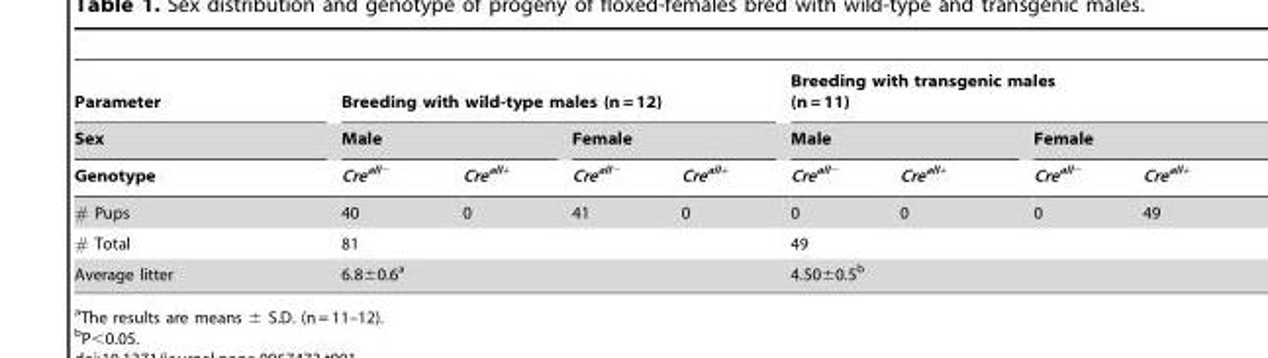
<table><thead><tr><td rowspan="3">Parameter Sex Genotype</td><td colspan="4">Breeding with wild-type males (n = 12)</td><td colspan="4">Breeding with transgenic males (n = 11)</td></tr><tr><td colspan="2">Male</td><td colspan="2">Female</td><td colspan="2">Male</td><td colspan="2">Female</td></tr><tr><td>Cre<sup>all−</sup></td><td>Cre<sup>all+</sup></td><td>Cre<sup>all−</sup></td><td>Cre<sup>all+</sup></td><td>Cre<sup>all−</sup></td><td>Cre<sup>all+</sup></td><td>Cre<sup>all−</sup></td><td>Cre<sup>all+</sup></td></tr></thead><tbody><tr><td># Pups</td><td>40</td><td>0</td><td>41</td><td>0</td><td>0</td><td>0</td><td>0</td><td>49</td></tr><tr><td># Total</td><td colspan="4">81</td><td colspan="4">49</td></tr><tr><td>Average litter</td><td colspan="4">6.8±0.6<sup>a</sup></td><td colspan="4">4.50±0.5<sup>b</sup></td></tr></tbody></table>